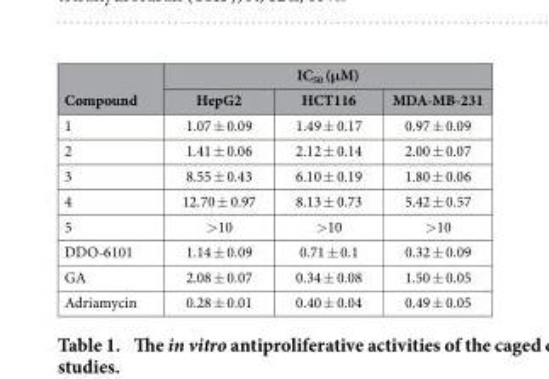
<table><thead><tr><td rowspan="2">Compound</td><td colspan="3">IC<sub>50</sub> (μM)</td></tr><tr><td>HepG2</td><td>HCT116</td><td>MDA-MB-231</td></tr></thead><tbody><tr><td>1</td><td>1.07 ± 0.09</td><td>1.49 ± 0.17</td><td>0.97 ± 0.09</td></tr><tr><td>2</td><td>1.41 ± 0.06</td><td>2.12 ± 0.14</td><td>2.00 ± 0.07</td></tr><tr><td>3</td><td>8.55 ± 0.43</td><td>6.10 ± 0.19</td><td>1.80 ± 0.06</td></tr><tr><td>4</td><td>12.70 ± 0.97</td><td>8.13 ± 0.73</td><td>5.42 ± 0.57</td></tr><tr><td>5</td><td>&gt; 10</td><td>&gt; 10</td><td>&gt; 10</td></tr><tr><td>DDO-6101</td><td>1.14 ± 0.09</td><td>0.71 ± 0.1</td><td>0.32 ± 0.09</td></tr><tr><td>GA</td><td>2.08 ± 0.07</td><td>0.34 ± 0.08</td><td>1.50 ± 0.05</td></tr><tr><td>Adriamycin</td><td>0.28 ± 0.01</td><td>0.40 ± 0.04</td><td>0.49 ± 0.05</td></tr></tbody></table>